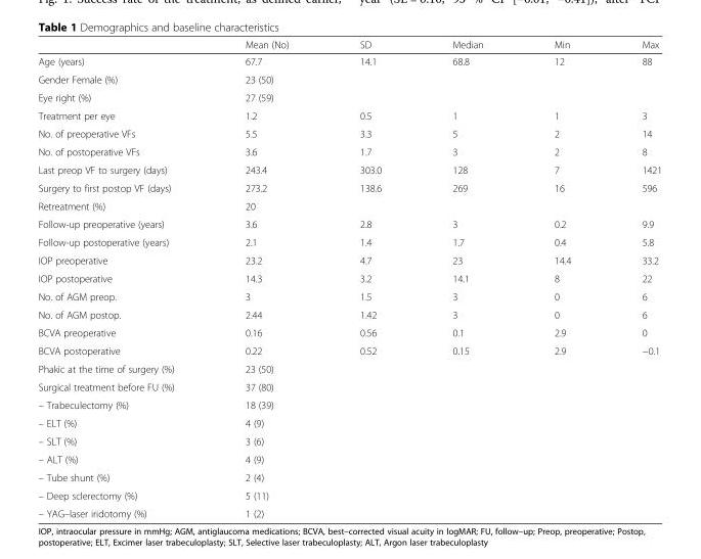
<table><thead><tr><td></td><td>Mean (No)</td><td>SD</td><td>Median</td><td>Min</td><td>Max</td></tr></thead><tbody><tr><td>Age (years)</td><td>67.7</td><td>14.1</td><td>68.8</td><td>12</td><td>88</td></tr><tr><td>Gender Female (%)</td><td>23 (50)</td><td></td><td></td><td></td><td></td></tr><tr><td>Eye right (%)</td><td>27 (59)</td><td></td><td></td><td></td><td></td></tr><tr><td>Treatment per eye</td><td>1.2</td><td>0.5</td><td>1</td><td>1</td><td>3</td></tr><tr><td>No. of preoperative VFs</td><td>5.5</td><td>3.3</td><td>5</td><td>2</td><td>14</td></tr><tr><td>No. of postoperative VFs</td><td>3.6</td><td>1.7</td><td>3</td><td>2</td><td>8</td></tr><tr><td>Last preop VF to surgery (days)</td><td>243.4</td><td>303.0</td><td>128</td><td>7</td><td>1421</td></tr><tr><td>Surgery to first postop VF (days)</td><td>273.2</td><td>138.6</td><td>269</td><td>16</td><td>596</td></tr><tr><td>Retreatment (%)</td><td>20</td><td></td><td></td><td></td><td></td></tr><tr><td>Follow-up preoperative (years)</td><td>3.6</td><td>2.8</td><td>3</td><td>0.2</td><td>9.9</td></tr><tr><td>Follow-up postoperative (years)</td><td>2.1</td><td>1.4</td><td>1.7</td><td>0.4</td><td>5.8</td></tr><tr><td>IOP preoperative</td><td>23.2</td><td>4.7</td><td>23</td><td>14.4</td><td>33.2</td></tr><tr><td>IOP postoperative</td><td>14.3</td><td>3.2</td><td>14.1</td><td>8</td><td>22</td></tr><tr><td>No. of AGM preop.</td><td>3</td><td>1.5</td><td>3</td><td>0</td><td>6</td></tr><tr><td>No. of AGM postop.</td><td>2.44</td><td>1.42</td><td>3</td><td>0</td><td>6</td></tr><tr><td>BCVA preoperative</td><td>0.16</td><td>0.56</td><td>0.1</td><td>2.9</td><td>0</td></tr><tr><td>BCVA postoperative</td><td>0.22</td><td>0.52</td><td>0.15</td><td>2.9</td><td>−0.1</td></tr><tr><td>Phakic at the time of surgery (%)</td><td>23 (50)</td><td></td><td></td><td></td><td></td></tr><tr><td>Surgical treatment before FU (%)</td><td>37 (80)</td><td></td><td></td><td></td><td></td></tr><tr><td>– Trabeculectomy (%)</td><td>18 (39)</td><td></td><td></td><td></td><td></td></tr><tr><td>– ELT (%)</td><td>4 (9)</td><td></td><td></td><td></td><td></td></tr><tr><td>– SLT (%)</td><td>3 (6)</td><td></td><td></td><td></td><td></td></tr><tr><td>– ALT (%)</td><td>4 (9)</td><td></td><td></td><td></td><td></td></tr><tr><td>– Tube shunt (%)</td><td>2 (4)</td><td></td><td></td><td></td><td></td></tr><tr><td>– Deep sclerectomy (%)</td><td>5 (11)</td><td></td><td></td><td></td><td></td></tr><tr><td>– YAG–laser iridotomy (%)</td><td>1 (2)</td><td></td><td></td><td></td><td></td></tr></tbody></table>